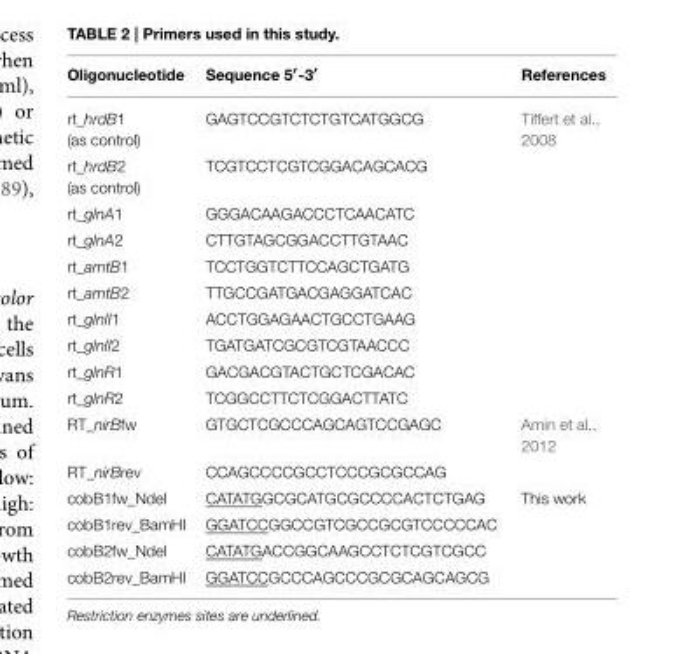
<table><thead><tr><td>Oligonucleotide</td><td>Sequence 5′-3′</td><td>References</td></tr></thead><tbody><tr><td>rt_hrdB1 (as control)</td><td>GAGTCCGTCTCTGTCATGGCG</td><td>Tiffert et al., 2008</td></tr><tr><td>rt_hrdB2 (as control)</td><td>TCGTCCTCGTCGGACAGCACG</td><td></td></tr><tr><td>rt_glnA1</td><td>GGGACAAGACCCTCAACATC</td><td></td></tr><tr><td>rt_glnA2</td><td>CTTGTAGCGGACCTTGTAAC</td><td></td></tr><tr><td>rt_amtB1</td><td>TCCTGGTCTTCCAGCTGATG</td><td></td></tr><tr><td>rt_amtB2</td><td>TTGCCGATGACGAGGATCAC</td><td></td></tr><tr><td>rt_glnII1</td><td>ACCTGGAGAACTGCCTGAAG</td><td></td></tr><tr><td>rt_glnII2</td><td>TGATGATCGCGTCGTAACCC</td><td></td></tr><tr><td>rt_glnR1</td><td>GACGACGTACTGCTCGACAC</td><td></td></tr><tr><td>rt_glnR2</td><td>TCGGCCTTCTCGGACTTATC</td><td></td></tr><tr><td>RT_nirBfw</td><td>GTGCTCGCCCAGCAGTCCGAGC</td><td>Amin et al., 2012</td></tr><tr><td>RT_nirBrev</td><td>CCAGCCCCGCCTCCCGCGCCAG</td><td></td></tr><tr><td>cobB1fw_NdeI</td><td>CATATGGCGCATGCGCCCCACTCTGAG</td><td>This work</td></tr><tr><td>cobB1rev_BamHI</td><td>GGATCCGGCCGTCGCCGCGTCCCCCAC</td><td></td></tr><tr><td>cobB2fw_NdeI</td><td>CATATGACCGGCAAGCCTCTCGTCGCC</td><td></td></tr><tr><td>cobB2rev_BamHI</td><td>GGATCCGCCCAGCCCGCGCAGCAGCG</td><td></td></tr></tbody></table>